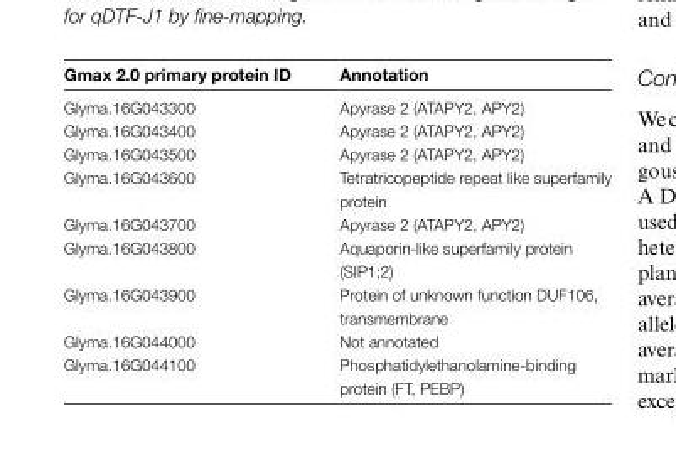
<table><thead><tr><td>Gmax 2.0 primary protein ID</td><td>Annotation</td></tr></thead><tbody><tr><td>Glyma.16G043300</td><td>Apyrase 2 (ATAPY2, APY2)</td></tr><tr><td>Glyma.16G043400</td><td>Apyrase 2 (ATAPY2, APY2)</td></tr><tr><td>Glyma.16G043500</td><td>Apyrase 2 (ATAPY2, APY2)</td></tr><tr><td>Glyma.16G043600</td><td>Tetratricopeptide repeat like superfamily protein</td></tr><tr><td>Glyma.16G043700</td><td>Apyrase 2 (ATAPY2, APY2)</td></tr><tr><td>Glyma.16G043800</td><td>Aquaporin-like superfamily protein (SIP1;2)</td></tr><tr><td>Glyma.16G043900</td><td>Protein of unknown function DUF106, transmembrane</td></tr><tr><td>Glyma.16G044000</td><td>Not annotated</td></tr><tr><td>Glyma.16G044100</td><td>Phosphatidylethanolamine-binding protein (FT, PEBP)</td></tr></tbody></table>